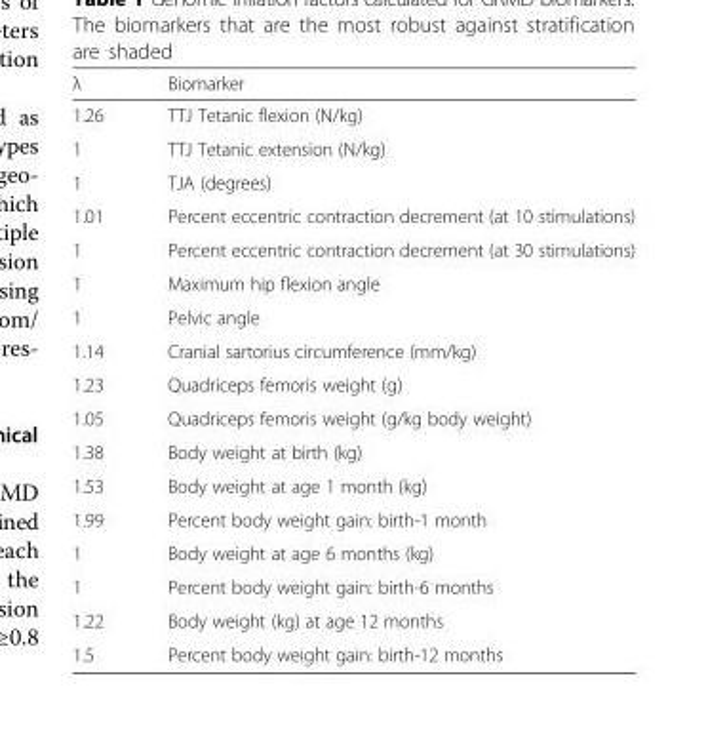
<table><thead><tr><td>λ</td><td>Biomarker</td></tr></thead><tbody><tr><td>1.26</td><td>TTJ Tetanic flexion (N/kg)</td></tr><tr><td>1</td><td>TTJ Tetanic extension (N/kg)</td></tr><tr><td>1</td><td>TJA (degrees)</td></tr><tr><td>1.01</td><td>Percent eccentric contraction decrement (at 10 stimulations)</td></tr><tr><td>1</td><td>Percent eccentric contraction decrement (at 30 stimulations)</td></tr><tr><td>1</td><td>Maximum hip flexion angle</td></tr><tr><td>1</td><td>Pelvic angle</td></tr><tr><td>1.14</td><td>Cranial sartorius circumference (mm/kg)</td></tr><tr><td>1.23</td><td>Quadriceps femoris weight (g)</td></tr><tr><td>1.05</td><td>Quadriceps femoris weight (g/kg body weight)</td></tr><tr><td>1.38</td><td>Body weight at birth (kg)</td></tr><tr><td>1.53</td><td>Body weight at age 1 month (kg)</td></tr><tr><td>1.99</td><td>Percent body weight gain: birth-1 month</td></tr><tr><td>1</td><td>Body weight at age 6 months (kg)</td></tr><tr><td>1</td><td>Percent body weight gain: birth-6 months</td></tr><tr><td>1.22</td><td>Body weight (kg) at age 12 months</td></tr><tr><td>1.5</td><td>Percent body weight gain: birth-12 months</td></tr></tbody></table>